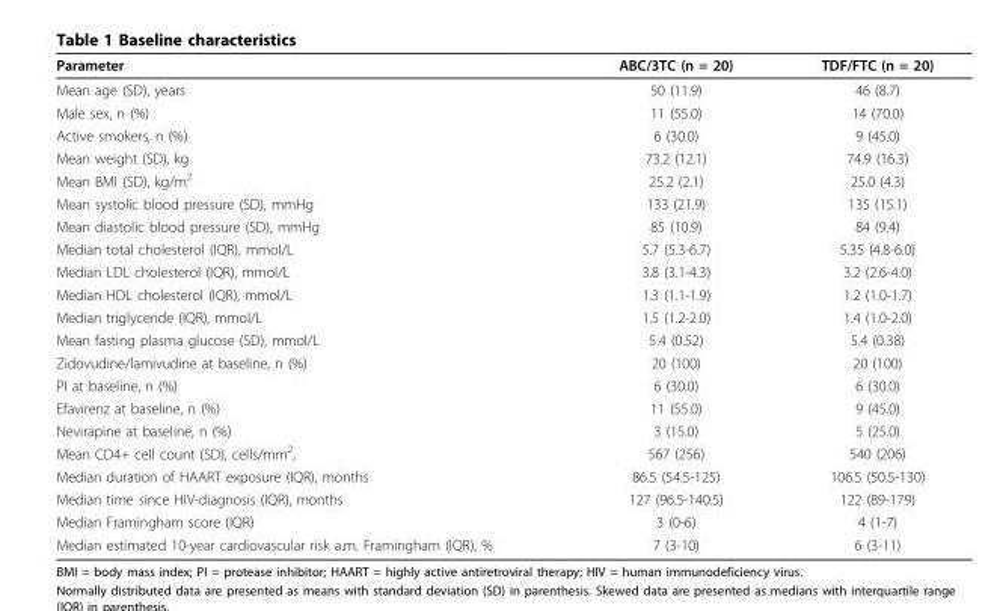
<table><thead><tr><td>Parameter</td><td>ABC/3TC (n = 20)</td><td>TDF/FTC (n = 20)</td></tr></thead><tbody><tr><td>Mean age (SD), years</td><td>50 (11.9)</td><td>46 (8.7)</td></tr><tr><td>Male sex, n (%)</td><td>11 (55.0)</td><td>14 (70.0)</td></tr><tr><td>Active smokers, n (%)</td><td>6 (30.0)</td><td>9 (45.0)</td></tr><tr><td>Mean weight (SD), kg</td><td>73.2 (12.1)</td><td>74.9 (16.3)</td></tr><tr><td>Mean BMI (SD), kg/m<sup>2</sup></td><td>25.2 (2.1)</td><td>25.0 (4.3)</td></tr><tr><td>Mean systolic blood pressure (SD), mmHg</td><td>133 (21.9)</td><td>135 (15.1)</td></tr><tr><td>Mean diastolic blood pressure (SD), mmHg</td><td>85 (10.9)</td><td>84 (9.4)</td></tr><tr><td>Median total cholesterol (IQR), mmol/L</td><td>5.7 (5.3-6.7)</td><td>5.35 (4.8-6.0)</td></tr><tr><td>Median LDL cholesterol (IQR), mmol/L</td><td>3.8 (3.1-4.3)</td><td>3.2 (2.6-4.0)</td></tr><tr><td>Median HDL cholesterol (IQR), mmol/L</td><td>1.3 (1.1-1.9)</td><td>1.2 (1.0-1.7)</td></tr><tr><td>Median triglyceride (IQR), mmol/L</td><td>1.5 (1.2-2.0)</td><td>1.4 (1.0-2.0)</td></tr><tr><td>Mean fasting plasma glucose (SD), mmol/L</td><td>5.4 (0.52)</td><td>5.4 (0.38)</td></tr><tr><td>Zidovudine/lamivudine at baseline, n (%)</td><td>20 (100)</td><td>20 (100)</td></tr><tr><td>PI at baseline, n (%)</td><td>6 (30.0)</td><td>6 (30.0)</td></tr><tr><td>Efavirenz at baseline, n (%)</td><td>11 (55.0)</td><td>9 (45.0)</td></tr><tr><td>Nevirapine at baseline, n (%)</td><td>3 (15.0)</td><td>5 (25.0)</td></tr><tr><td>Mean CD4+ cell count (SD), cells/mm<sup>2</sup>,</td><td>567 (256)</td><td>540 (206)</td></tr><tr><td>Median duration of HAART exposure (IQR), months</td><td>86.5 (54.5-125)</td><td>106.5 (50.5-130)</td></tr><tr><td>Median time since HIV-diagnosis (IQR), months</td><td>127 (96.5-140.5)</td><td>122 (89-179)</td></tr><tr><td>Median Framingham score (IQR)</td><td>3 (0-6)</td><td>4 (1-7)</td></tr><tr><td>Median estimated 10-year cardiovascular risk a.m. Framingham (IQR), %</td><td>7 (3-10)</td><td>6 (3-11)</td></tr></tbody></table>